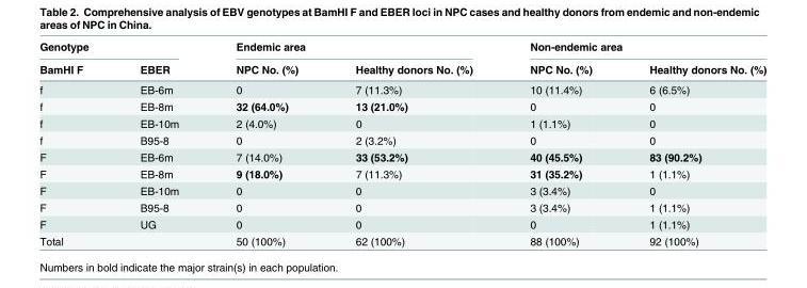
<table><thead><tr><td colspan="2">Genotype</td><td colspan="2">Endemic area</td><td colspan="2">Non-endemic area</td></tr><tr><td>BamHI F</td><td>EBER</td><td>NPC No. (%)</td><td>Healthy donors No. (%)</td><td>NPC No. (%)</td><td>Healthy donors No. (%)</td></tr></thead><tbody><tr><td>f</td><td>EB-6m</td><td>0</td><td>7 (11.3%)</td><td>10 (11.4%)</td><td>6 (6.5%)</td></tr><tr><td>f</td><td>EB-8m</td><td>32 (64.0%)</td><td>13 (21.0%)</td><td>0</td><td>0</td></tr><tr><td>f</td><td>EB-10m</td><td>2 (4.0%)</td><td>0</td><td>1 (1.1%)</td><td>0</td></tr><tr><td>f</td><td>B95-8</td><td>0</td><td>2 (3.2%)</td><td>0</td><td>0</td></tr><tr><td>F</td><td>EB-6m</td><td>7 (14.0%)</td><td>33 (53.2%)</td><td>40 (45.5%)</td><td>83 (90.2%)</td></tr><tr><td>F</td><td>EB-8m</td><td>9 (18.0%)</td><td>7 (11.3%)</td><td>31 (35.2%)</td><td>1 (1.1%)</td></tr><tr><td>F</td><td>EB-10m</td><td>0</td><td>0</td><td>3 (3.4%)</td><td>0</td></tr><tr><td>F</td><td>B95-8</td><td>0</td><td>0</td><td>3 (3.4%)</td><td>1 (1.1%)</td></tr><tr><td>F</td><td>UG</td><td>0</td><td>0</td><td>0</td><td>1 (1.1%)</td></tr><tr><td colspan="2">Total</td><td>50 (100%)</td><td>62 (100%)</td><td>88 (100%)</td><td>92 (100%)</td></tr></tbody></table>